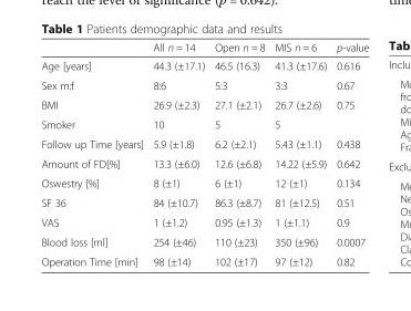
<table><thead><tr><td></td><td>All n = 14</td><td>Open n = 8</td><td>MIS n = 6</td><td>p-value</td></tr></thead><tbody><tr><td>Age [years]</td><td>44.3 (±17.1)</td><td>46.5 (16.3)</td><td>41.3 (±17.6)</td><td>0.616</td></tr><tr><td>Sex m:f</td><td>8:6</td><td>5:3</td><td>3:3</td><td>0.67</td></tr><tr><td>BMI</td><td>26.9 (±2.3)</td><td>27.1 (±2.1)</td><td>26.7 (±2.6)</td><td>0.75</td></tr><tr><td>Smoker</td><td>10</td><td>5</td><td>5</td><td></td></tr><tr><td>Follow up Time [years]</td><td>5.9 (±1.8)</td><td>6.2 (±2.1)</td><td>5.43 (±1.1)</td><td>0.438</td></tr><tr><td>Amount of FD[%]</td><td>13.3 (±6.0)</td><td>12.6 (±6.8)</td><td>14.22 (±5.9)</td><td>0.642</td></tr><tr><td>Oswestry [%]</td><td>8 (±1)</td><td>6 (±1)</td><td>12 (±1)</td><td>0.134</td></tr><tr><td>SF 36</td><td>84 (±10.7)</td><td>86.3 (±8.7)</td><td>81 (±12.5)</td><td>0.51</td></tr><tr><td>VAS</td><td>1 (±1.2)</td><td>0.95 (±1.3)</td><td>1 (±1.1)</td><td>0.9</td></tr><tr><td>Blood loss [ml]</td><td>254 (±46)</td><td>110 (±23)</td><td>350 (±96)</td><td>0.0007</td></tr><tr><td>Operation Time [min]</td><td>98 (±14)</td><td>102 (±17)</td><td>97 (±12)</td><td>0.82</td></tr></tbody></table>